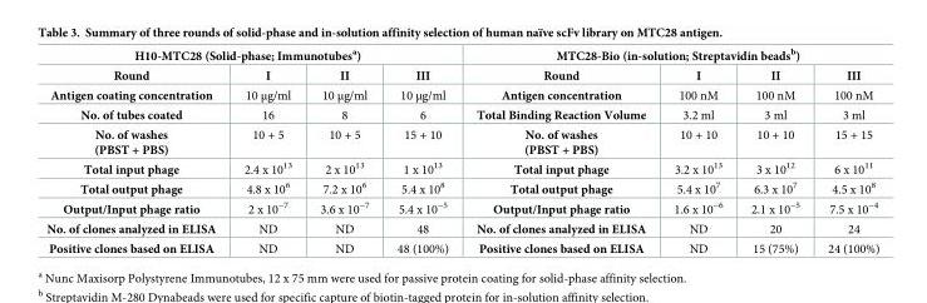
<table><thead><tr><td colspan="4">H10-MTC28 (Solid-phase; Immunotubes<sup>a</sup>)</td><td colspan="4">MTC28-Bio (in-solution; Streptavidin beads<sup>b</sup>)</td></tr><tr><td>Round</td><td>I</td><td>II</td><td>III</td><td>Round</td><td>I</td><td>II</td><td>III</td></tr></thead><tbody><tr><td>Antigen coating concentration</td><td>10 μg/ml</td><td>10 μg/ml</td><td>10 μg/ml</td><td>Antigen concentration</td><td>100 nM</td><td>100 nM</td><td>100 nM</td></tr><tr><td>No. of tubes coated</td><td>16</td><td>8</td><td>6</td><td>Total Binding Reaction Volume</td><td>3.2 ml</td><td>3 ml</td><td>3 ml</td></tr><tr><td>No. of washes (PBST + PBS)</td><td>10 + 5</td><td>10 + 5</td><td>15 + 10</td><td>No. of washes (PBST + PBS)</td><td>10 + 10</td><td>10 + 10</td><td>15 + 15</td></tr><tr><td>Total input phage</td><td>2.4 x 10<sup>13</sup></td><td>2 x 10<sup>13</sup></td><td>1 x 10<sup>13</sup></td><td>Total input phage</td><td>3.2 x 10<sup>13</sup></td><td>3 x 10<sup>12</sup></td><td>6 x 10<sup>11</sup></td></tr><tr><td>Total output phage</td><td>4.8 x 10<sup>6</sup></td><td>7.2 x 10<sup>6</sup></td><td>5.4 x 10<sup>8</sup></td><td>Total output phage</td><td>5.4 x 10<sup>7</sup></td><td>6.3 x 10<sup>7</sup></td><td>4.5 x 10<sup>8</sup></td></tr><tr><td>Output/Input phage ratio</td><td>2 x 10<sup>−7</sup></td><td>3.6 x 10<sup>−7</sup></td><td>5.4 x 10<sup>−5</sup></td><td>Output/Input phage ratio</td><td>1.6 x 10<sup>−6</sup></td><td>2.1 x 10<sup>−5</sup></td><td>7.5 x 10<sup>−4</sup></td></tr><tr><td>No. of clones analyzed in ELISA</td><td>ND</td><td>ND</td><td>48</td><td>No. of clones analyzed in ELISA</td><td>ND</td><td>20</td><td>24</td></tr><tr><td>Positive clones based on ELISA</td><td>ND</td><td>ND</td><td>48 (100%)</td><td>Positive clones based on ELISA</td><td>ND</td><td>15 (75%)</td><td>24 (100%)</td></tr></tbody></table>